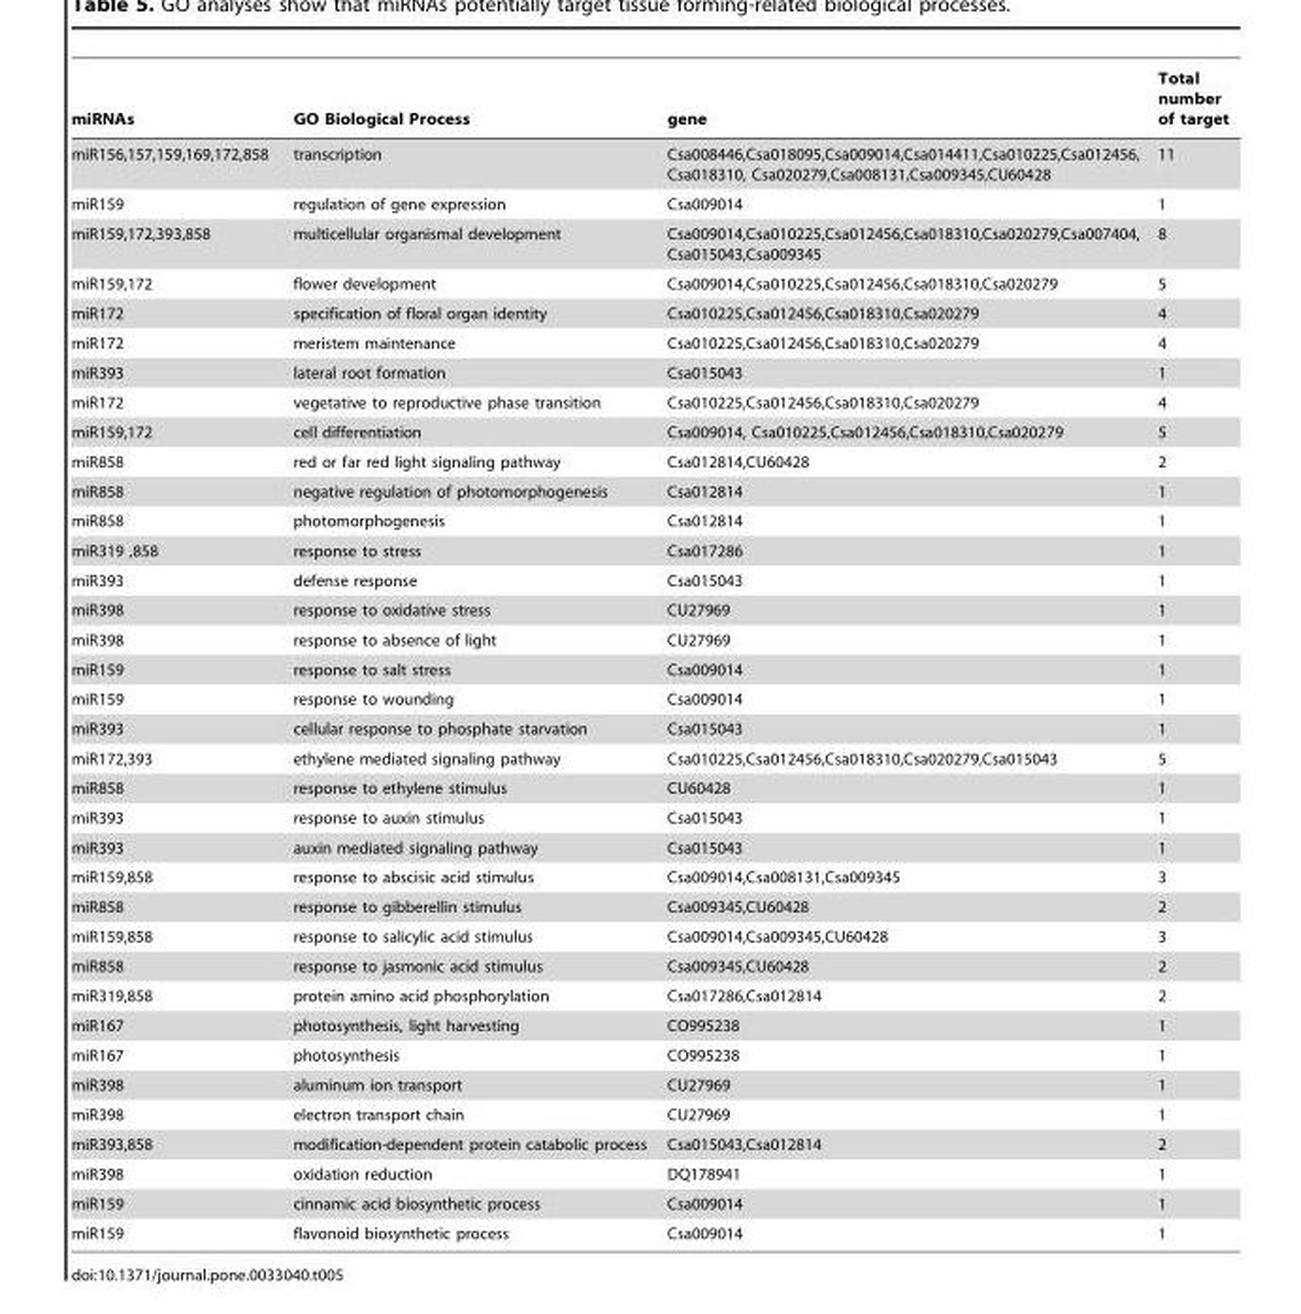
<table><thead><tr><td>miRNAs</td><td>GO Biological Process</td><td>gene</td><td>Total number of target</td></tr></thead><tbody><tr><td>miR156,157,159,169,172,858</td><td>transcription</td><td>Csa008446,Csa018095,Csa009014,Csa014411,Csa010225,Csa012456, Csa018310, Csa020279,Csa008131,Csa009345,CU60428</td><td>11</td></tr><tr><td>miR159</td><td>regulation of gene expression</td><td>Csa009014</td><td>1</td></tr><tr><td>miR159,172,393,858</td><td>multicellular organismal development</td><td>Csa009014,Csa010225,Csa012456,Csa018310,Csa020279,Csa007404, Csa015043,Csa009345</td><td>8</td></tr><tr><td>miR159,172</td><td>flower development</td><td>Csa009014,Csa010225,Csa012456,Csa018310,Csa020279</td><td>5</td></tr><tr><td>miR172</td><td>specification of floral organ identity</td><td>Csa010225,Csa012456,Csa018310,Csa020279</td><td>4</td></tr><tr><td>miR172</td><td>meristem maintenance</td><td>Csa010225,Csa012456,Csa018310,Csa020279</td><td>4</td></tr><tr><td>miR393</td><td>lateral root formation</td><td>Csa015043</td><td>1</td></tr><tr><td>miR172</td><td>vegetative to reproductive phase transition</td><td>Csa010225,Csa012456,Csa018310,Csa020279</td><td>4</td></tr><tr><td>miR159,172</td><td>cell differentiation</td><td>Csa009014, Csa010225,Csa012456,Csa018310,Csa020279</td><td>5</td></tr><tr><td>miR858</td><td>red or far red light signaling pathway</td><td>Csa012814,CU60428</td><td>2</td></tr><tr><td>miR858</td><td>negative regulation of photomorphogenesis</td><td>Csa012814</td><td>1</td></tr><tr><td>miR858</td><td>photomorphogenesis</td><td>Csa012814</td><td>1</td></tr><tr><td>miR319 ,858</td><td>response to stress</td><td>Csa017286</td><td>1</td></tr><tr><td>miR393</td><td>defense response</td><td>Csa015043</td><td>1</td></tr><tr><td>miR398</td><td>response to oxidative stress</td><td>CU27969</td><td>1</td></tr><tr><td>miR398</td><td>response to absence of light</td><td>CU27969</td><td>1</td></tr><tr><td>miR159</td><td>response to salt stress</td><td>Csa009014</td><td>1</td></tr><tr><td>miR159</td><td>response to wounding</td><td>Csa009014</td><td>1</td></tr><tr><td>miR393</td><td>cellular response to phosphate starvation</td><td>Csa015043</td><td>1</td></tr><tr><td>miR172,393</td><td>ethylene mediated signaling pathway</td><td>Csa010225,Csa012456,Csa018310,Csa020279,Csa015043</td><td>5</td></tr><tr><td>miR858</td><td>response to ethylene stimulus</td><td>CU60428</td><td>1</td></tr><tr><td>miR393</td><td>response to auxin stimulus</td><td>Csa015043</td><td>1</td></tr><tr><td>miR393</td><td>auxin mediated signaling pathway</td><td>Csa015043</td><td>1</td></tr><tr><td>miR159,858</td><td>response to abscisic acid stimulus</td><td>Csa009014,Csa008131,Csa009345</td><td>3</td></tr><tr><td>miR858</td><td>response to gibberellin stimulus</td><td>Csa009345,CU60428</td><td>2</td></tr><tr><td>miR159,858</td><td>response to salicylic acid stimulus</td><td>Csa009014,Csa009345,CU60428</td><td>3</td></tr><tr><td>miR858</td><td>response to jasmonic acid stimulus</td><td>Csa009345,CU60428</td><td>2</td></tr><tr><td>miR319,858</td><td>protein amino acid phosphorylation</td><td>Csa017286,Csa012814</td><td>2</td></tr><tr><td>miR167</td><td>photosynthesis, light harvesting</td><td>CO995238</td><td>1</td></tr><tr><td>miR167</td><td>photosynthesis</td><td>CO995238</td><td>1</td></tr><tr><td>miR398</td><td>aluminum ion transport</td><td>CU27969</td><td>1</td></tr><tr><td>miR398</td><td>electron transport chain</td><td>CU27969</td><td>1</td></tr><tr><td>miR393,858</td><td>modification-dependent protein catabolic process</td><td>Csa015043,Csa012814</td><td>2</td></tr><tr><td>miR398</td><td>oxidation reduction</td><td>DQ178941</td><td>1</td></tr><tr><td>miR159</td><td>cinnamic acid biosynthetic process</td><td>Csa009014</td><td>1</td></tr><tr><td>miR159</td><td>flavonoid biosynthetic process</td><td>Csa009014</td><td>1</td></tr></tbody></table>